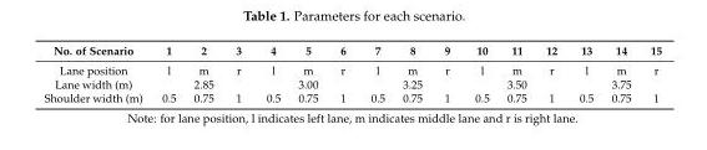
<table><thead><tr><td>No. of Scenario</td><td>1</td><td>2</td><td>3</td><td>4</td><td>5</td><td>6</td><td>7</td><td>8</td><td>9</td><td>10</td><td>11</td><td>12</td><td>13</td><td>14</td><td>15</td></tr></thead><tbody><tr><td>Lane position</td><td>l</td><td>m</td><td>r</td><td>l</td><td>m</td><td>r</td><td>l</td><td>m</td><td>r</td><td>l</td><td>m</td><td>r</td><td>l</td><td>m</td><td>r</td></tr><tr><td>Lane width (m)</td><td colspan="3">2.85</td><td colspan="3">3.00</td><td colspan="3">3.25</td><td colspan="3">3.50</td><td colspan="3">3.75</td></tr><tr><td>Shoulder width (m)</td><td>0.5</td><td>0.75</td><td>1</td><td>0.5</td><td>0.75</td><td>1</td><td>0.5</td><td>0.75</td><td>1</td><td>0.5</td><td>0.75</td><td>1</td><td>0.5</td><td>0.75</td><td>1</td></tr></tbody></table>